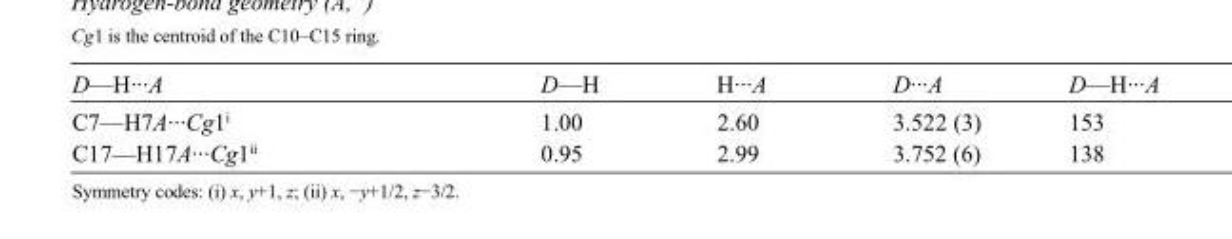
<table><tbody><tr><td>D—H···A</td><td>D—H</td><td>H···A</td><td>D···A</td><td>D—H···A</td></tr><tr><td>C7—H7A···Cg1<sup>i</sup></td><td>1.00</td><td>2.60</td><td>3.522 (3)</td><td>153</td></tr><tr><td>C17—H17A···Cg1<sup>ii</sup></td><td>0.95</td><td>2.99</td><td>3.752 (6)</td><td>138</td></tr></tbody></table>